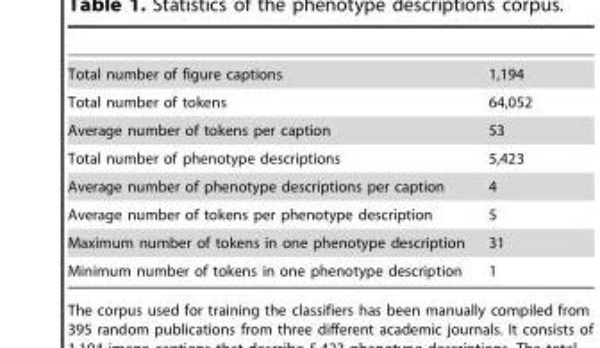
<table><tbody><tr><td>Total number of figure captions</td><td>1,194</td></tr><tr><td>Total number of tokens</td><td>64,052</td></tr><tr><td>Average number of tokens per caption</td><td>53</td></tr><tr><td>Total number of phenotype descriptions</td><td>5,423</td></tr><tr><td>Average number of phenotype descriptions per caption</td><td>4</td></tr><tr><td>Average number of tokens per phenotype description</td><td>5</td></tr><tr><td>Maximum number of tokens in one phenotype description</td><td>31</td></tr><tr><td>Minimum number of tokens in one phenotype description</td><td>1</td></tr></tbody></table>